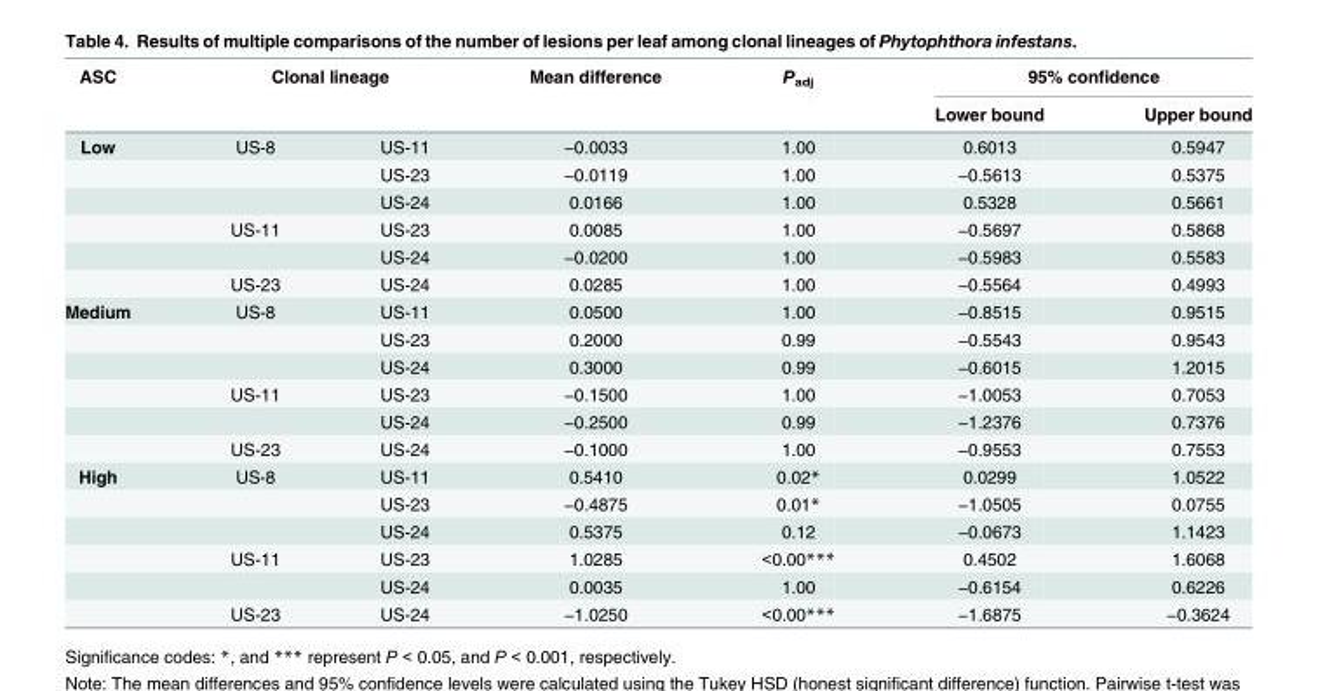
<table><thead><tr><td rowspan="2">ASC</td><td colspan="2">Clonal lineage</td><td rowspan="2">Mean difference</td><td rowspan="2">P<sub>adj</sub></td><td colspan="2">95% confidence</td></tr><tr><td></td><td></td><td>Lower bound</td><td>Upper bound</td></tr></thead><tbody><tr><td rowspan="6">Low</td><td>US-8</td><td>US-11</td><td>−0.0033</td><td>1.00</td><td>0.6013</td><td>0.5947</td></tr><tr><td></td><td>US-23</td><td>−0.0119</td><td>1.00</td><td>−0.5613</td><td>0.5375</td></tr><tr><td></td><td>US-24</td><td>0.0166</td><td>1.00</td><td>0.5328</td><td>0.5661</td></tr><tr><td>US-11</td><td>US-23</td><td>0.0085</td><td>1.00</td><td>−0.5697</td><td>0.5868</td></tr><tr><td></td><td>US-24</td><td>−0.0200</td><td>1.00</td><td>−0.5983</td><td>0.5583</td></tr><tr><td>US-23</td><td>US-24</td><td>0.0285</td><td>1.00</td><td>−0.5564</td><td>0.4993</td></tr><tr><td rowspan="6">Medium</td><td>US-8</td><td>US-11</td><td>0.0500</td><td>1.00</td><td>−0.8515</td><td>0.9515</td></tr><tr><td></td><td>US-23</td><td>0.2000</td><td>0.99</td><td>−0.5543</td><td>0.9543</td></tr><tr><td></td><td>US-24</td><td>0.3000</td><td>0.99</td><td>−0.6015</td><td>1.2015</td></tr><tr><td>US-11</td><td>US-23</td><td>−0.1500</td><td>1.00</td><td>−1.0053</td><td>0.7053</td></tr><tr><td></td><td>US-24</td><td>−0.2500</td><td>0.99</td><td>−1.2376</td><td>0.7376</td></tr><tr><td>US-23</td><td>US-24</td><td>−0.1000</td><td>1.00</td><td>−0.9553</td><td>0.7553</td></tr><tr><td rowspan="6">High</td><td>US-8</td><td>US-11</td><td>0.5410</td><td>0.02*</td><td>0.0299</td><td>1.0522</td></tr><tr><td></td><td>US-23</td><td>−0.4875</td><td>0.01*</td><td>−1.0505</td><td>0.0755</td></tr><tr><td></td><td>US-24</td><td>0.5375</td><td>0.12</td><td>−0.0673</td><td>1.1423</td></tr><tr><td>US-11</td><td>US-23</td><td>1.0285</td><td>&lt;0.00***</td><td>0.4502</td><td>1.6068</td></tr><tr><td></td><td>US-24</td><td>0.0035</td><td>1.00</td><td>−0.6154</td><td>0.6226</td></tr><tr><td>US-23</td><td>US-24</td><td>−1.0250</td><td>&lt;0.00***</td><td>−1.6875</td><td>−0.3624</td></tr></tbody></table>